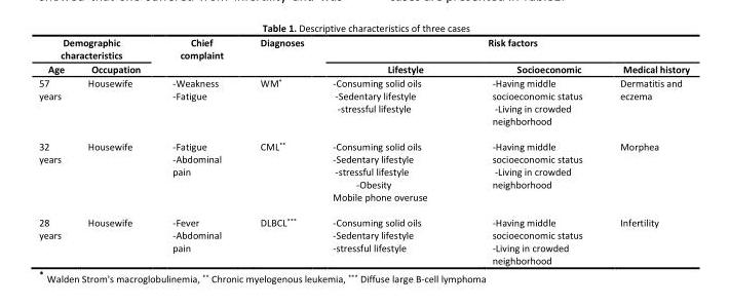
<table><thead><tr><td colspan="2">Demographic characteristics</td><td rowspan="2">Chief complaint</td><td rowspan="2">Diagnoses</td><td colspan="3">Risk factors</td></tr><tr><td>Age</td><td>Occupation</td><td>Lifestyle</td><td>Socioeconomic</td><td>Medical history</td></tr></thead><tbody><tr><td>57 years</td><td>Housewife</td><td>-Weakness -Fatigue</td><td>WM*</td><td>-Consuming solid oils -Sedentary lifestyle -stressful lifestyle</td><td>-Having middle socioeconomic status -Living in crowded neighborhood</td><td>Dermatitis and eczema</td></tr><tr><td>32 years</td><td>Housewife</td><td>-Fatigue -Abdominal pain</td><td>CML**</td><td>-Consuming solid oils -Sedentary lifestyle -stressful lifestyle -Obesity Mobile phone overuse</td><td>-Having middle socioeconomic status -Living in crowded neighborhood</td><td>Morphea</td></tr><tr><td>28 years</td><td>Housewife</td><td>-Fever -Abdominal pain</td><td>DLBCL***</td><td>-Consuming solid oils -Sedentary lifestyle -stressful lifestyle</td><td>-Having middle socioeconomic status -Living in crowded neighborhood</td><td>Infertility</td></tr></tbody></table>